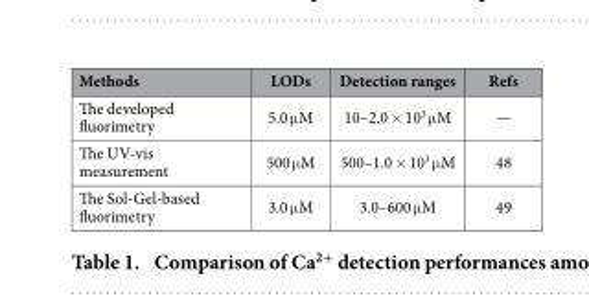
<table><thead><tr><td>Methods</td><td>LODs</td><td>Detection ranges</td><td>Refs</td></tr></thead><tbody><tr><td>The developed fluorimetry</td><td>5.0 μ M</td><td>10–2.0 × 10<sup>3</sup> μ M</td><td>—</td></tr><tr><td>The UV-vis measurement</td><td>500 μ M</td><td>500–1.0 × 10<sup>3</sup> μ M</td><td>48</td></tr><tr><td>The Sol-Gel-based fluorimetry</td><td>3.0 μ M</td><td>3.0–600 μ M</td><td>49</td></tr></tbody></table>